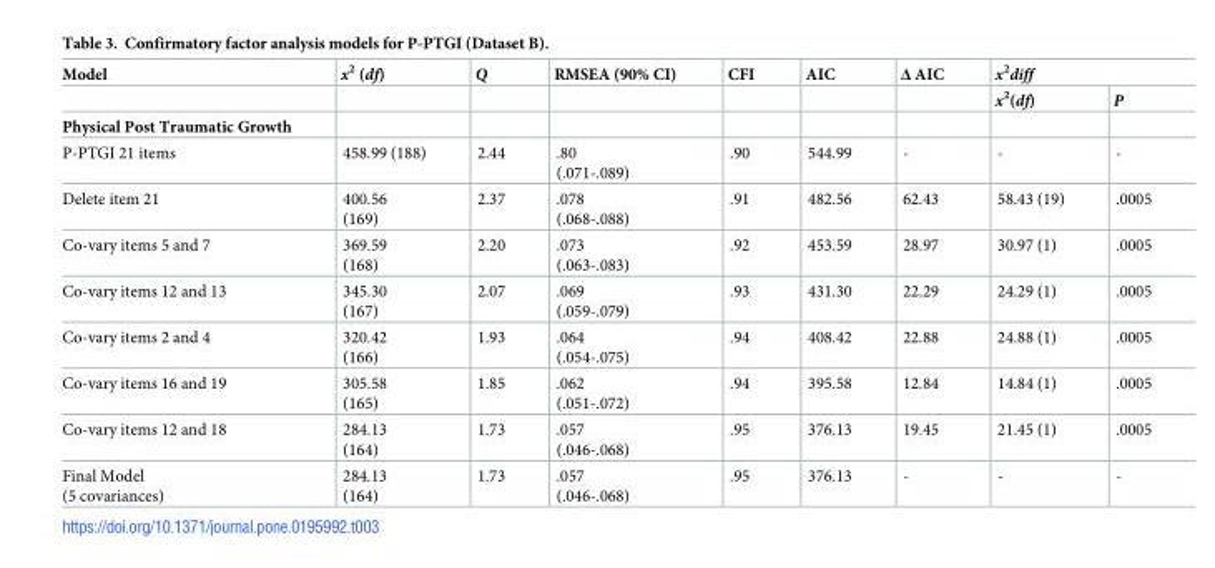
<table><thead><tr><td rowspan="2">Model</td><td rowspan="2">x<sup>2</sup> (df)</td><td rowspan="2">Q</td><td rowspan="2">RMSEA (90% CI)</td><td rowspan="2">CFI</td><td rowspan="2">AIC</td><td rowspan="2">Δ AIC</td><td colspan="2">x<sup>2</sup>diff</td></tr><tr><td>x<sup>2</sup>(df)</td><td>P</td></tr></thead><tbody><tr><td colspan="9">Physical Post Traumatic Growth</td></tr><tr><td>P-PTGI 21 items</td><td>458.99 (188)</td><td>2.44</td><td>.80 (.071-.089)</td><td>.90</td><td>544.99</td><td>-</td><td>-</td><td>-</td></tr><tr><td>Delete item 21</td><td>400.56 (169)</td><td>2.37</td><td>.078 (.068-.088)</td><td>.91</td><td>482.56</td><td>62.43</td><td>58.43 (19)</td><td>.0005</td></tr><tr><td>Co-vary items 5 and 7</td><td>369.59 (168)</td><td>2.20</td><td>.073 (.063-.083)</td><td>.92</td><td>453.59</td><td>28.97</td><td>30.97 (1)</td><td>.0005</td></tr><tr><td>Co-vary items 12 and 13</td><td>345.30 (167)</td><td>2.07</td><td>.069 (.059-.079)</td><td>.93</td><td>431.30</td><td>22.29</td><td>24.29 (1)</td><td>.0005</td></tr><tr><td>Co-vary items 2 and 4</td><td>320.42 (166)</td><td>1.93</td><td>.064 (.054-.075)</td><td>.94</td><td>408.42</td><td>22.88</td><td>24.88 (1)</td><td>.0005</td></tr><tr><td>Co-vary items 16 and 19</td><td>305.58 (165)</td><td>1.85</td><td>.062 (.051-.072)</td><td>.94</td><td>395.58</td><td>12.84</td><td>14.84 (1)</td><td>.0005</td></tr><tr><td>Co-vary items 12 and 18</td><td>284.13 (164)</td><td>1.73</td><td>.057 (.046-.068)</td><td>.95</td><td>376.13</td><td>19.45</td><td>21.45 (1)</td><td>.0005</td></tr><tr><td>Final Model (5 covariances)</td><td>284.13 (164)</td><td>1.73</td><td>.057 (.046-.068)</td><td>.95</td><td>376.13</td><td>-</td><td>-</td><td>-</td></tr></tbody></table>